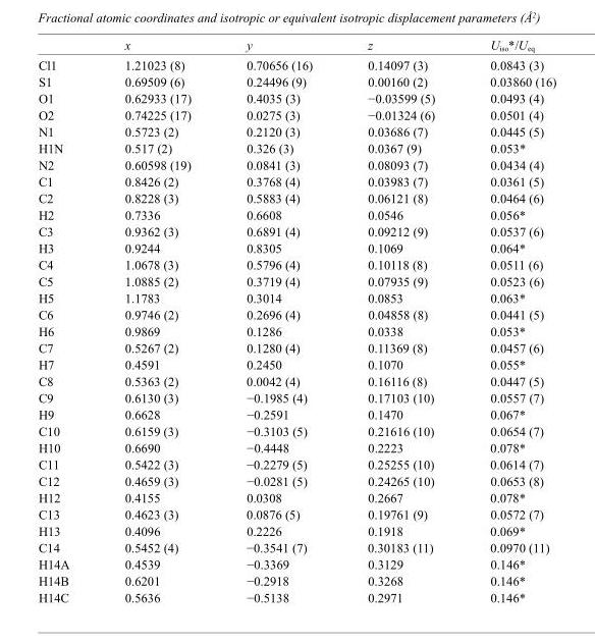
<table><thead><tr><td></td><td>x</td><td>y</td><td>z</td><td>U<sub>iso</sub>*/U<sub>eq</sub></td></tr></thead><tbody><tr><td>Cl1</td><td>1.21023 (8)</td><td>0.70656 (16)</td><td>0.14097 (3)</td><td>0.0843 (3)</td></tr><tr><td>S1</td><td>0.69509 (6)</td><td>0.24496 (9)</td><td>0.00160 (2)</td><td>0.03860 (16)</td></tr><tr><td>O1</td><td>0.62933 (17)</td><td>0.4035 (3)</td><td>−0.03599 (5)</td><td>0.0493 (4)</td></tr><tr><td>O2</td><td>0.74225 (17)</td><td>0.0275 (3)</td><td>−0.01324 (6)</td><td>0.0501 (4)</td></tr><tr><td>N1</td><td>0.5723 (2)</td><td>0.2120 (3)</td><td>0.03686 (7)</td><td>0.0445 (5)</td></tr><tr><td>H1N</td><td>0.517 (2)</td><td>0.326 (3)</td><td>0.0367 (9)</td><td>0.053*</td></tr><tr><td>N2</td><td>0.60598 (19)</td><td>0.0841 (3)</td><td>0.08093 (7)</td><td>0.0434 (4)</td></tr><tr><td>C1</td><td>0.8426 (2)</td><td>0.3768 (4)</td><td>0.03983 (7)</td><td>0.0361 (5)</td></tr><tr><td>C2</td><td>0.8228 (3)</td><td>0.5883 (4)</td><td>0.06121 (8)</td><td>0.0464 (6)</td></tr><tr><td>H2</td><td>0.7336</td><td>0.6608</td><td>0.0546</td><td>0.056*</td></tr><tr><td>C3</td><td>0.9362 (3)</td><td>0.6891 (4)</td><td>0.09212 (9)</td><td>0.0537 (6)</td></tr><tr><td>H3</td><td>0.9244</td><td>0.8305</td><td>0.1069</td><td>0.064*</td></tr><tr><td>C4</td><td>1.0678 (3)</td><td>0.5796 (4)</td><td>0.10118 (8)</td><td>0.0511 (6)</td></tr><tr><td>C5</td><td>1.0885 (2)</td><td>0.3719 (4)</td><td>0.07935 (9)</td><td>0.0523 (6)</td></tr><tr><td>H5</td><td>1.1783</td><td>0.3014</td><td>0.0853</td><td>0.063*</td></tr><tr><td>C6</td><td>0.9746 (2)</td><td>0.2696 (4)</td><td>0.04858 (8)</td><td>0.0441 (5)</td></tr><tr><td>H6</td><td>0.9869</td><td>0.1286</td><td>0.0338</td><td>0.053*</td></tr><tr><td>C7</td><td>0.5267 (2)</td><td>0.1280 (4)</td><td>0.11369 (8)</td><td>0.0457 (6)</td></tr><tr><td>H7</td><td>0.4591</td><td>0.2450</td><td>0.1070</td><td>0.055*</td></tr><tr><td>C8</td><td>0.5363 (2)</td><td>0.0042 (4)</td><td>0.16116 (8)</td><td>0.0447 (5)</td></tr><tr><td>C9</td><td>0.6130 (3)</td><td>−0.1985 (4)</td><td>0.17103 (10)</td><td>0.0557 (7)</td></tr><tr><td>H9</td><td>0.6628</td><td>−0.2591</td><td>0.1470</td><td>0.067*</td></tr><tr><td>C10</td><td>0.6159 (3)</td><td>−0.3103 (5)</td><td>0.21616 (10)</td><td>0.0654 (7)</td></tr><tr><td>H10</td><td>0.6690</td><td>−0.4448</td><td>0.2223</td><td>0.078*</td></tr><tr><td>C11</td><td>0.5422 (3)</td><td>−0.2279 (5)</td><td>0.25255 (10)</td><td>0.0614 (7)</td></tr><tr><td>C12</td><td>0.4659 (3)</td><td>−0.0281 (5)</td><td>0.24265 (10)</td><td>0.0653 (8)</td></tr><tr><td>H12</td><td>0.4155</td><td>0.0308</td><td>0.2667</td><td>0.078*</td></tr><tr><td>C13</td><td>0.4623 (3)</td><td>0.0876 (5)</td><td>0.19761 (9)</td><td>0.0572 (7)</td></tr><tr><td>H13</td><td>0.4096</td><td>0.2226</td><td>0.1918</td><td>0.069*</td></tr><tr><td>C14</td><td>0.5452 (4)</td><td>−0.3541 (7)</td><td>0.30183 (11)</td><td>0.0970 (11)</td></tr><tr><td>H14A</td><td>0.4539</td><td>−0.3369</td><td>0.3129</td><td>0.146*</td></tr><tr><td>H14B</td><td>0.6201</td><td>−0.2918</td><td>0.3268</td><td>0.146*</td></tr><tr><td>H14C</td><td>0.5636</td><td>−0.5138</td><td>0.2971</td><td>0.146*</td></tr></tbody></table>